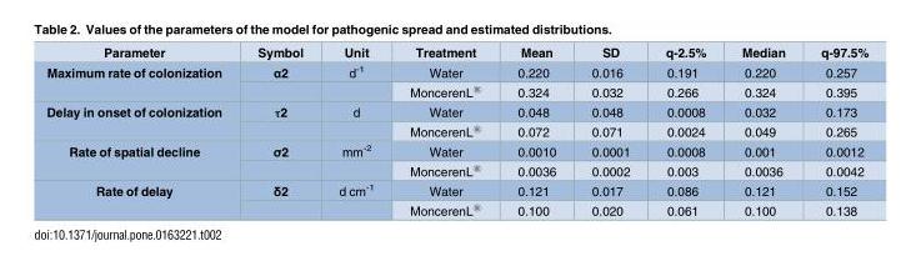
<table><thead><tr><td>Parameter</td><td>Symbol</td><td>Unit</td><td>Treatment</td><td>Mean</td><td>SD</td><td>q-2.5%</td><td>Median</td><td>q-97.5%</td></tr></thead><tbody><tr><td rowspan="2">Maximum rate of colonization</td><td>α2</td><td>d<sup>-1</sup></td><td>Water</td><td>0.220</td><td>0.016</td><td>0.191</td><td>0.220</td><td>0.257</td></tr><tr><td></td><td></td><td>MoncerenL<sup>®</sup></td><td>0.324</td><td>0.032</td><td>0.266</td><td>0.324</td><td>0.395</td></tr><tr><td rowspan="2">Delay in onset of colonization</td><td>τ2</td><td>d</td><td>Water</td><td>0.048</td><td>0.048</td><td>0.0008</td><td>0.032</td><td>0.173</td></tr><tr><td></td><td></td><td>MoncerenL<sup>®</sup></td><td>0.072</td><td>0.071</td><td>0.0024</td><td>0.049</td><td>0.265</td></tr><tr><td rowspan="2">Rate of spatial decline</td><td>σ2</td><td>mm<sup>-2</sup></td><td>Water</td><td>0.0010</td><td>0.0001</td><td>0.0008</td><td>0.001</td><td>0.0012</td></tr><tr><td></td><td></td><td>MoncerenL<sup>®</sup></td><td>0.0036</td><td>0.0002</td><td>0.003</td><td>0.0036</td><td>0.0042</td></tr><tr><td rowspan="2">Rate of delay</td><td>δ2</td><td>d cm<sup>-1</sup></td><td>Water</td><td>0.121</td><td>0.017</td><td>0.086</td><td>0.121</td><td>0.152</td></tr><tr><td></td><td></td><td>MoncerenL<sup>®</sup></td><td>0.100</td><td>0.020</td><td>0.061</td><td>0.100</td><td>0.138</td></tr></tbody></table>